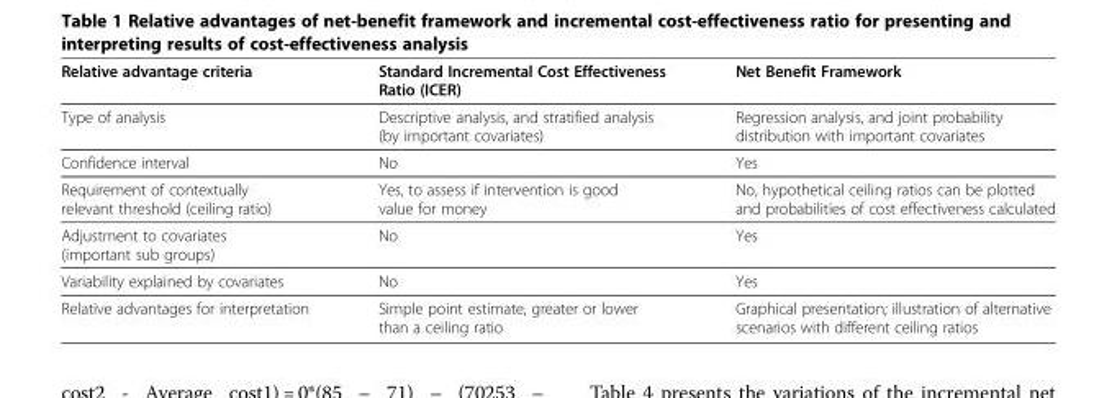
<table><tbody><tr><td>Relative advantage criteria</td><td>Standard Incremental Cost Effectiveness Ratio (ICER)</td><td>Net Benefit Framework</td></tr><tr><td>Type of analysis</td><td>Descriptive analysis, and stratified analysis (by important covariates)</td><td>Regression analysis, and joint probability distribution with important covariates</td></tr><tr><td>Confidence interval</td><td>No</td><td>Yes</td></tr><tr><td>Requirement of contextually relevant threshold (ceiling ratio)</td><td>Yes, to assess if intervention is good value for money</td><td>No, hypothetical ceiling ratios can be plotted and probabilities of cost effectiveness calculated</td></tr><tr><td>Adjustment to covariates (important sub groups)</td><td>No</td><td>Yes</td></tr><tr><td>Variability explained by covariates</td><td>No</td><td>Yes</td></tr><tr><td>Relative advantages for interpretation</td><td>Simple point estimate, greater or lower than a ceiling ratio</td><td>Graphical presentation; illustration of alternative scenarios with different ceiling ratios</td></tr></tbody></table>